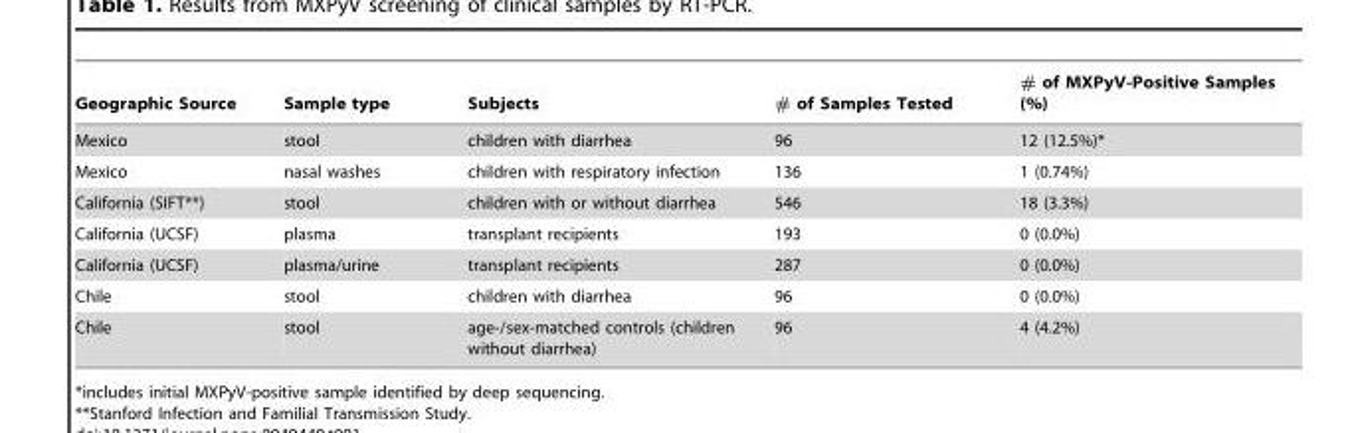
<table><thead><tr><td>Geographic Source</td><td>Sample type</td><td>Subjects</td><td># of Samples Tested</td><td># of MXPyV-Positive Samples (%)</td></tr></thead><tbody><tr><td>Mexico</td><td>stool</td><td>children with diarrhea</td><td>96</td><td>12 (12.5%)*</td></tr><tr><td>Mexico</td><td>nasal washes</td><td>children with respiratory infection</td><td>136</td><td>1 (0.74%)</td></tr><tr><td>California (SIFT**)</td><td>stool</td><td>children with or without diarrhea</td><td>546</td><td>18 (3.3%)</td></tr><tr><td>California (UCSF)</td><td>plasma</td><td>transplant recipients</td><td>193</td><td>0 (0.0%)</td></tr><tr><td>California (UCSF)</td><td>plasma/urine</td><td>transplant recipients</td><td>287</td><td>0 (0.0%)</td></tr><tr><td>Chile</td><td>stool</td><td>children with diarrhea</td><td>96</td><td>0 (0.0%)</td></tr><tr><td>Chile</td><td>stool</td><td>age-/sex-matched controls (children without diarrhea)</td><td>96</td><td>4 (4.2%)</td></tr></tbody></table>